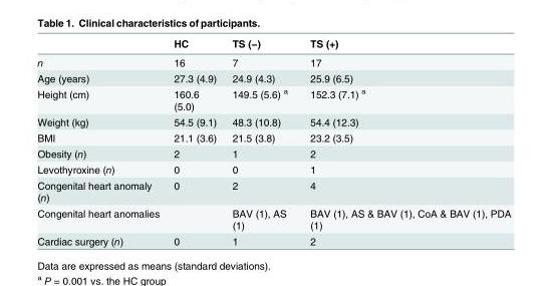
<table><thead><tr><td></td><td>HC</td><td>TS (−)</td><td>TS (+)</td></tr></thead><tbody><tr><td>n</td><td>16</td><td>7</td><td>17</td></tr><tr><td>Age (years)</td><td>27.3 (4.9)</td><td>24.9 (4.3)</td><td>25.9 (6.5)</td></tr><tr><td>Height (cm)</td><td>160.6 (5.0)</td><td>149.5 (5.6) <sup>a</sup></td><td>152.3 (7.1) <sup>a</sup></td></tr><tr><td>Weight (kg)</td><td>54.5 (9.1)</td><td>48.3 (10.8)</td><td>54.4 (12.3)</td></tr><tr><td>BMI</td><td>21.1 (3.6)</td><td>21.5 (3.8)</td><td>23.2 (3.5)</td></tr><tr><td>Obesity (n)</td><td>2</td><td>1</td><td>2</td></tr><tr><td>Levothyroxine (n)</td><td>0</td><td>0</td><td>1</td></tr><tr><td>Congenital heart anomaly (n)</td><td>0</td><td>2</td><td>4</td></tr><tr><td>Congenital heart anomalies</td><td></td><td>BAV (1), AS (1)</td><td>BAV (1), AS &amp; BAV (1), CoA &amp; BAV (1), PDA (1)</td></tr><tr><td>Cardiac surgery (n)</td><td>0</td><td>1</td><td>2</td></tr></tbody></table>